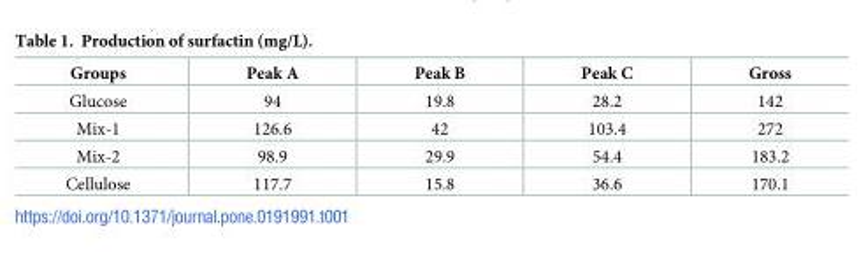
<table><thead><tr><td>Groups</td><td>Peak A</td><td>Peak B</td><td>Peak C</td><td>Gross</td></tr></thead><tbody><tr><td>Glucose</td><td>94</td><td>19.8</td><td>28.2</td><td>142</td></tr><tr><td>Mix-1</td><td>126.6</td><td>42</td><td>103.4</td><td>272</td></tr><tr><td>Mix-2</td><td>98.9</td><td>29.9</td><td>54.4</td><td>183.2</td></tr><tr><td>Cellulose</td><td>117.7</td><td>15.8</td><td>36.6</td><td>170.1</td></tr></tbody></table>